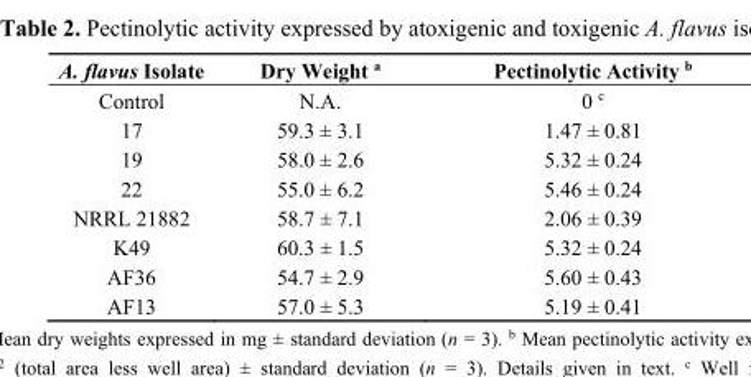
<table><thead><tr><td>A. flavus Isolate</td><td>Dry Weight <sup>a</sup></td><td>Pectinolytic Activity <sup>b</sup></td></tr></thead><tbody><tr><td>Control</td><td>N.A.</td><td>0 <sup>c</sup></td></tr><tr><td>17</td><td>59.3 ± 3.1</td><td>1.47 ± 0.81</td></tr><tr><td>19</td><td>58.0 ± 2.6</td><td>5.32 ± 0.24</td></tr><tr><td>22</td><td>55.0 ± 6.2</td><td>5.46 ± 0.24</td></tr><tr><td>NRRL 21882</td><td>58.7 ± 7.1</td><td>2.06 ± 0.39</td></tr><tr><td>K49</td><td>60.3 ± 1.5</td><td>5.32 ± 0.24</td></tr><tr><td>AF36</td><td>54.7 ± 2.9</td><td>5.60 ± 0.43</td></tr><tr><td>AF13</td><td>57.0 ± 5.3</td><td>5.19 ± 0.41</td></tr></tbody></table>